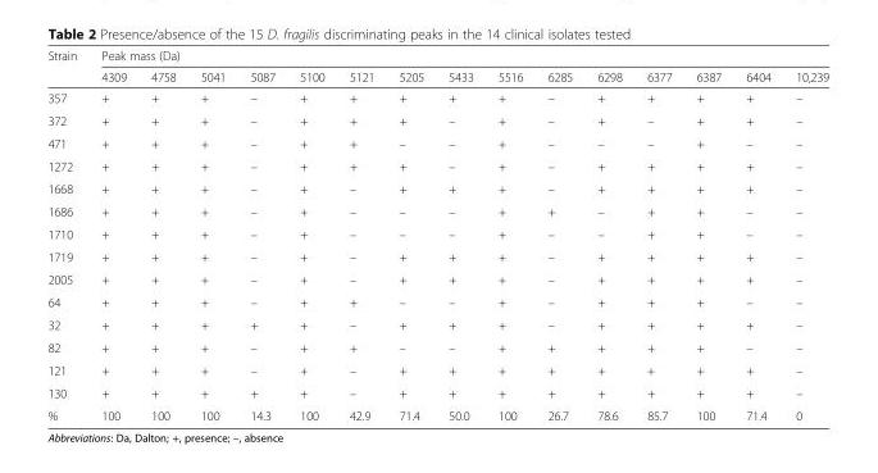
<table><thead><tr><td rowspan="2">Strain</td><td colspan="15">Peak mass (Da)</td></tr><tr><td>4309</td><td>4758</td><td>5041</td><td>5087</td><td>5100</td><td>5121</td><td>5205</td><td>5433</td><td>5516</td><td>6285</td><td>6298</td><td>6377</td><td>6387</td><td>6404</td><td>10,239</td></tr></thead><tbody><tr><td>357</td><td>+</td><td>+</td><td>+</td><td>–</td><td>+</td><td>+</td><td>+</td><td>+</td><td>+</td><td>–</td><td>+</td><td>+</td><td>+</td><td>+</td><td>–</td></tr><tr><td>372</td><td>+</td><td>+</td><td>+</td><td>–</td><td>+</td><td>+</td><td>+</td><td>–</td><td>+</td><td>–</td><td>+</td><td>–</td><td>+</td><td>+</td><td>–</td></tr><tr><td>471</td><td>+</td><td>+</td><td>+</td><td>–</td><td>+</td><td>+</td><td>–</td><td>–</td><td>+</td><td>–</td><td>–</td><td>–</td><td>+</td><td>–</td><td>–</td></tr><tr><td>1272</td><td>+</td><td>+</td><td>+</td><td>–</td><td>+</td><td>+</td><td>+</td><td>–</td><td>+</td><td>–</td><td>+</td><td>+</td><td>+</td><td>+</td><td>–</td></tr><tr><td>1668</td><td>+</td><td>+</td><td>+</td><td>–</td><td>+</td><td>–</td><td>+</td><td>+</td><td>+</td><td>–</td><td>+</td><td>+</td><td>+</td><td>+</td><td>–</td></tr><tr><td>1686</td><td>+</td><td>+</td><td>+</td><td>–</td><td>+</td><td>–</td><td>–</td><td>–</td><td>+</td><td>+</td><td>–</td><td>+</td><td>+</td><td>–</td><td>–</td></tr><tr><td>1710</td><td>+</td><td>+</td><td>+</td><td>–</td><td>+</td><td>–</td><td>–</td><td>–</td><td>+</td><td>–</td><td>–</td><td>+</td><td>+</td><td>–</td><td>–</td></tr><tr><td>1719</td><td>+</td><td>+</td><td>+</td><td>–</td><td>+</td><td>–</td><td>+</td><td>+</td><td>+</td><td>–</td><td>+</td><td>+</td><td>+</td><td>+</td><td>–</td></tr><tr><td>2005</td><td>+</td><td>+</td><td>+</td><td>–</td><td>+</td><td>–</td><td>+</td><td>+</td><td>+</td><td>–</td><td>+</td><td>+</td><td>+</td><td>+</td><td>–</td></tr><tr><td>64</td><td>+</td><td>+</td><td>+</td><td>–</td><td>+</td><td>+</td><td>–</td><td>–</td><td>+</td><td>–</td><td>+</td><td>+</td><td>+</td><td>–</td><td>–</td></tr><tr><td>32</td><td>+</td><td>+</td><td>+</td><td>+</td><td>+</td><td>–</td><td>+</td><td>+</td><td>+</td><td>–</td><td>+</td><td>+</td><td>+</td><td>+</td><td>–</td></tr><tr><td>82</td><td>+</td><td>+</td><td>+</td><td>–</td><td>+</td><td>+</td><td>–</td><td>–</td><td>+</td><td>+</td><td>+</td><td>+</td><td>+</td><td>–</td><td>–</td></tr><tr><td>121</td><td>+</td><td>+</td><td>+</td><td>–</td><td>+</td><td>–</td><td>+</td><td>+</td><td>+</td><td>+</td><td>+</td><td>+</td><td>+</td><td>+</td><td>–</td></tr><tr><td>130</td><td>+</td><td>+</td><td>+</td><td>+</td><td>+</td><td>–</td><td>+</td><td>+</td><td>+</td><td>+</td><td>+</td><td>+</td><td>+</td><td>+</td><td>–</td></tr><tr><td>%</td><td>100</td><td>100</td><td>100</td><td>14.3</td><td>100</td><td>42.9</td><td>71.4</td><td>50.0</td><td>100</td><td>26.7</td><td>78.6</td><td>85.7</td><td>100</td><td>71.4</td><td>0</td></tr></tbody></table>